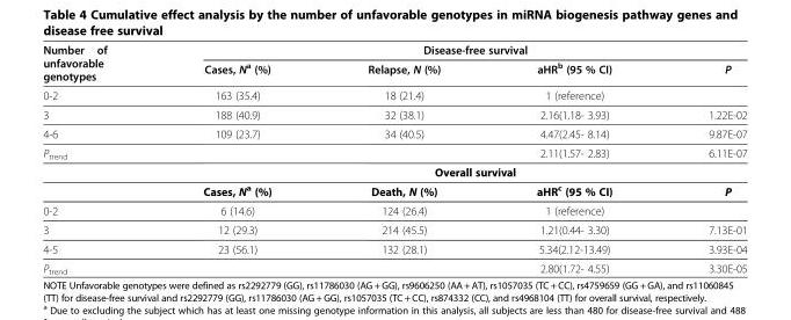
<table><thead><tr><td rowspan="2">Number of unfavorable genotypes</td><td colspan="4">Disease-free survival</td></tr><tr><td>Cases, N<sup>a</sup> (%)</td><td>Relapse, N (%)</td><td>aHR<sup>b</sup> (95 % CI)</td><td>P</td></tr></thead><tbody><tr><td>0-2</td><td>163 (35.4)</td><td>18 (21.4)</td><td>1 (reference)</td><td></td></tr><tr><td>3</td><td>188 (40.9)</td><td>32 (38.1)</td><td>2.16(1.18- 3.93)</td><td>1.22E-02</td></tr><tr><td>4-6</td><td>109 (23.7)</td><td>34 (40.5)</td><td>4.47(2.45- 8.14)</td><td>9.87E-07</td></tr><tr><td rowspan="3">P<sub>trend</sub></td><td></td><td></td><td>2.11(1.57- 2.83)</td><td>6.11E-07</td></tr><tr><td colspan="4">Overall survival</td></tr><tr><td>Cases, N<sup>a</sup> (%)</td><td>Death, N (%)</td><td>aHR<sup>c</sup> (95 % CI)</td><td>P</td></tr><tr><td>0-2</td><td>6 (14.6)</td><td>124 (26.4)</td><td>1 (reference)</td><td></td></tr><tr><td>3</td><td>12 (29.3)</td><td>214 (45.5)</td><td>1.21(0.44- 3.30)</td><td>7.13E-01</td></tr><tr><td>4-5</td><td>23 (56.1)</td><td>132 (28.1)</td><td>5.34(2.12-13.49)</td><td>3.93E-04</td></tr><tr><td>P<sub>trend</sub></td><td></td><td></td><td>2.80(1.72- 4.55)</td><td>3.30E-05</td></tr></tbody></table>